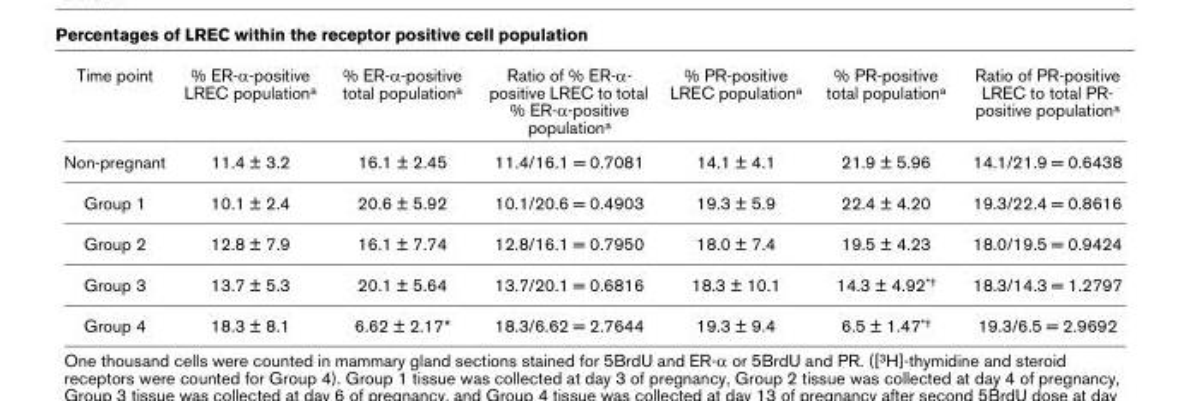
<table><thead><tr><td>Time point</td><td>% ER-α-positive LREC population<sup>a</sup></td><td>% ER-α-positive total population<sup>a</sup></td><td>Ratio of % ER-α- positive LREC to total % ER-α-positive population<sup>a</sup></td><td>% PR-positive LREC population<sup>a</sup></td><td>% PR-positive total population<sup>a</sup></td><td>Ratio of PR-positive LREC to total PR- positive population<sup>a</sup></td></tr></thead><tbody><tr><td>Non-pregnant</td><td>11.4 ± 3.2</td><td>16.1 ± 2.45</td><td>11.4/16.1 = 0.7081</td><td>14.1 ± 4.1</td><td>21.9 ± 5.96</td><td>14.1/21.9 = 0.6438</td></tr><tr><td>Group 1</td><td>10.1 ± 2.4</td><td>20.6 ± 5.92</td><td>10.1/20.6 = 0.4903</td><td>19.3 ± 5.9</td><td>22.4 ± 4.20</td><td>19.3/22.4 = 0.8616</td></tr><tr><td>Group 2</td><td>12.8 ± 7.9</td><td>16.1 ± 7.74</td><td>12.8/16.1 = 0.7950</td><td>18.0 ± 7.4</td><td>19.5 ± 4.23</td><td>18.0/19.5 = 0.9424</td></tr><tr><td>Group 3</td><td>13.7 ± 5.3</td><td>20.1 ± 5.64</td><td>13.7/20.1 = 0.6816</td><td>18.3 ± 10.1</td><td>14.3 ± 4.92<sup>*†</sup></td><td>18.3/14.3 = 1.2797</td></tr><tr><td>Group 4</td><td>18.3 ± 8.1</td><td>6.62 ± 2.17*</td><td>18.3/6.62 = 2.7644</td><td>19.3 ± 9.4</td><td>6.5 ± 1.47<sup>*†</sup></td><td>19.3/6.5 = 2.9692</td></tr></tbody></table>